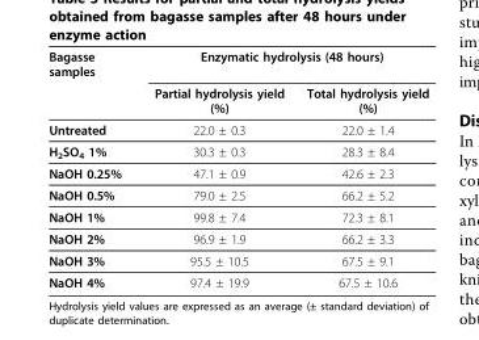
<table><thead><tr><td rowspan="2">Bagasse samples</td><td colspan="2">Enzymatic hydrolysis (48 hours)</td></tr><tr><td>Partial hydrolysis yield (%)</td><td>Total hydrolysis yield (%)</td></tr></thead><tbody><tr><td>Untreated</td><td>22.0 ± 0.3</td><td>22.0 ± 1.4</td></tr><tr><td>H2SO4 1%</td><td>30.3 ± 0.3</td><td>28.3 ± 8.4</td></tr><tr><td>NaOH 0.25%</td><td>47.1 ± 0.9</td><td>42.6 ± 2.3</td></tr><tr><td>NaOH 0.5%</td><td>79.0 ± 2.5</td><td>66.2 ± 5.2</td></tr><tr><td>NaOH 1%</td><td>99.8 ± 7.4</td><td>72.3 ± 8.1</td></tr><tr><td>NaOH 2%</td><td>96.9 ± 1.9</td><td>66.2 ± 3.3</td></tr><tr><td>NaOH 3%</td><td>95.5 ± 10.5</td><td>67.5 ± 9.1</td></tr><tr><td>NaOH 4%</td><td>97.4 ± 19.9</td><td>67.5 ± 10.6</td></tr></tbody></table>